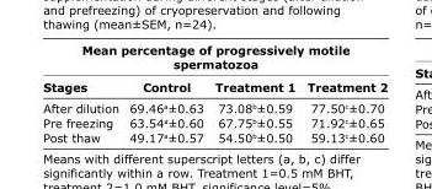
<table><thead><tr><td colspan="4">Mean percentage of progressively motile spermatozoa</td></tr><tr><td>Stages</td><td>Control</td><td>Treatment 1</td><td>Treatment 2</td></tr></thead><tbody><tr><td>After dilution</td><td>69.46<sup>a</sup>±0.63</td><td>73.08<sup>b</sup>±0.59</td><td>77.50<sup>c</sup>±0.70</td></tr><tr><td>Pre freezing</td><td>63.54<sup>a</sup>±0.60</td><td>67.75<sup>b</sup>±0.55</td><td>71.92<sup>c</sup>±0.65</td></tr><tr><td>Post thaw</td><td>49.17<sup>a</sup>±0.57</td><td>54.50<sup>b</sup>±0.50</td><td>59.13<sup>c</sup>±0.60</td></tr></tbody></table>